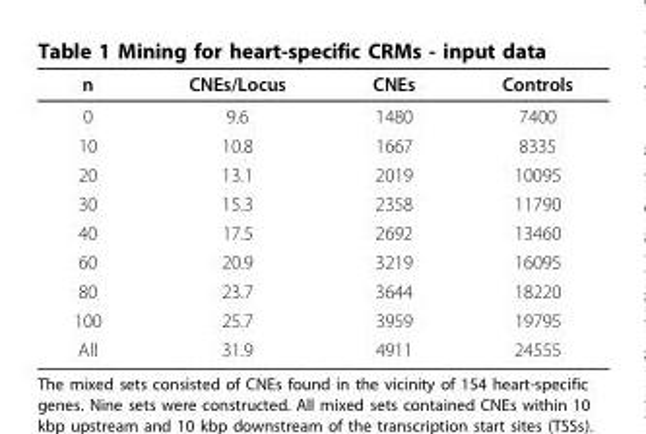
<table><thead><tr><td>n</td><td>CNEs/Locus</td><td>CNEs</td><td>Controls</td></tr></thead><tbody><tr><td>0</td><td>9.6</td><td>1480</td><td>7400</td></tr><tr><td>10</td><td>10.8</td><td>1667</td><td>8335</td></tr><tr><td>20</td><td>13.1</td><td>2019</td><td>10095</td></tr><tr><td>30</td><td>15.3</td><td>2358</td><td>11790</td></tr><tr><td>40</td><td>17.5</td><td>2692</td><td>13460</td></tr><tr><td>60</td><td>20.9</td><td>3219</td><td>16095</td></tr><tr><td>80</td><td>23.7</td><td>3644</td><td>18220</td></tr><tr><td>100</td><td>25.7</td><td>3959</td><td>19795</td></tr><tr><td>All</td><td>31.9</td><td>4911</td><td>24555</td></tr></tbody></table>